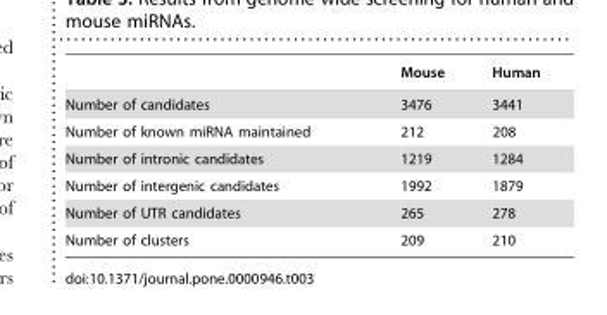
<table><thead><tr><td></td><td>Mouse</td><td>Human</td></tr></thead><tbody><tr><td>Number of candidates</td><td>3476</td><td>3441</td></tr><tr><td>Number of known miRNA maintained</td><td>212</td><td>208</td></tr><tr><td>Number of intronic candidates</td><td>1219</td><td>1284</td></tr><tr><td>Number of intergenic candidates</td><td>1992</td><td>1879</td></tr><tr><td>Number of UTR candidates</td><td>265</td><td>278</td></tr><tr><td>Number of clusters</td><td>209</td><td>210</td></tr></tbody></table>